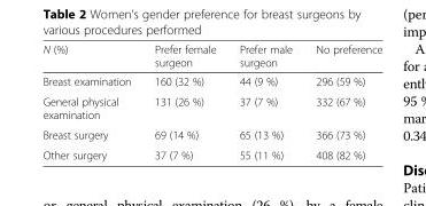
<table><thead><tr><td>N (%)</td><td>Prefer female surgeon</td><td>Prefer male surgeon</td><td>No preference</td></tr></thead><tbody><tr><td>Breast examination</td><td>160 (32 %)</td><td>44 (9 %)</td><td>296 (59 %)</td></tr><tr><td>General physical examination</td><td>131 (26 %)</td><td>37 (7 %)</td><td>332 (67 %)</td></tr><tr><td>Breast surgery</td><td>69 (14 %)</td><td>65 (13 %)</td><td>366 (73 %)</td></tr><tr><td>Other surgery</td><td>37 (7 %)</td><td>55 (11 %)</td><td>408 (82 %)</td></tr></tbody></table>